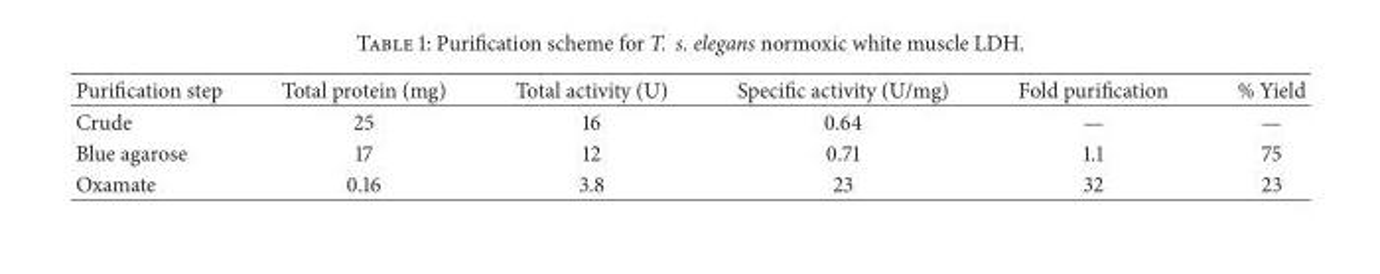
<table><thead><tr><td>Purification step</td><td>Total protein (mg)</td><td>Total activity (U)</td><td>Specific activity (U/mg)</td><td>Fold purification</td><td>% Yield</td></tr></thead><tbody><tr><td>Crude</td><td>25</td><td>16</td><td>0.64</td><td>—</td><td>—</td></tr><tr><td>Blue agarose</td><td>17</td><td>12</td><td>0.71</td><td>1.1</td><td>75</td></tr><tr><td>Oxamate</td><td>0.16</td><td>3.8</td><td>23</td><td>32</td><td>23</td></tr></tbody></table>